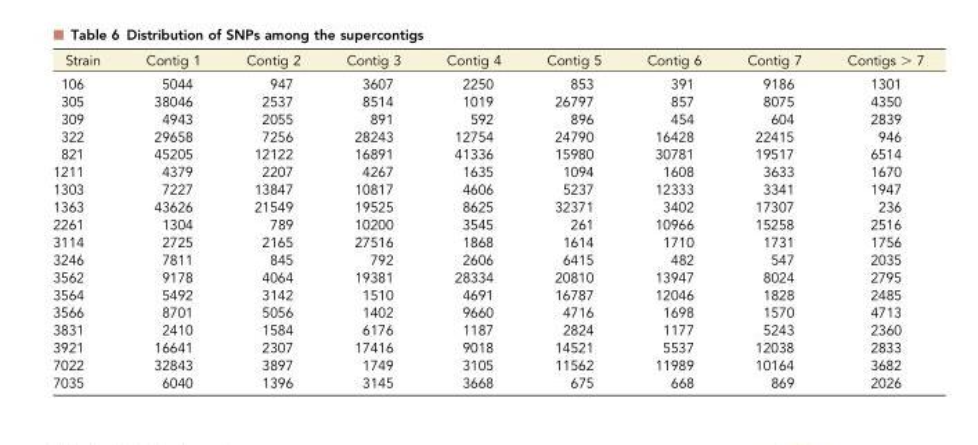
<table><thead><tr><td>Strain</td><td>Contig 1</td><td>Contig 2</td><td>Contig 3</td><td>Contig 4</td><td>Contig 5</td><td>Contig 6</td><td>Contig 7</td><td>Contigs &gt; 7</td></tr></thead><tbody><tr><td>106</td><td>5044</td><td>947</td><td>3607</td><td>2250</td><td>853</td><td>391</td><td>9186</td><td>1301</td></tr><tr><td>305</td><td>38046</td><td>2537</td><td>8514</td><td>1019</td><td>26797</td><td>857</td><td>8075</td><td>4350</td></tr><tr><td>309</td><td>4943</td><td>2055</td><td>891</td><td>592</td><td>896</td><td>454</td><td>604</td><td>2839</td></tr><tr><td>322</td><td>29658</td><td>7256</td><td>28243</td><td>12754</td><td>24790</td><td>16428</td><td>22415</td><td>946</td></tr><tr><td>821</td><td>45205</td><td>12122</td><td>16891</td><td>41336</td><td>15980</td><td>30781</td><td>19517</td><td>6514</td></tr><tr><td>1211</td><td>4379</td><td>2207</td><td>4267</td><td>1635</td><td>1094</td><td>1608</td><td>3633</td><td>1670</td></tr><tr><td>1303</td><td>7227</td><td>13847</td><td>10817</td><td>4606</td><td>5237</td><td>12333</td><td>3341</td><td>1947</td></tr><tr><td>1363</td><td>43626</td><td>21549</td><td>19525</td><td>8625</td><td>32371</td><td>3402</td><td>17307</td><td>236</td></tr><tr><td>2261</td><td>1304</td><td>789</td><td>10200</td><td>3545</td><td>261</td><td>10966</td><td>15258</td><td>2516</td></tr><tr><td>3114</td><td>2725</td><td>2165</td><td>27516</td><td>1868</td><td>1614</td><td>1710</td><td>1731</td><td>1756</td></tr><tr><td>3246</td><td>7811</td><td>845</td><td>792</td><td>2606</td><td>6415</td><td>482</td><td>547</td><td>2035</td></tr><tr><td>3562</td><td>9178</td><td>4064</td><td>19381</td><td>28334</td><td>20810</td><td>13947</td><td>8024</td><td>2795</td></tr><tr><td>3564</td><td>5492</td><td>3142</td><td>1510</td><td>4691</td><td>16787</td><td>12046</td><td>1828</td><td>2485</td></tr><tr><td>3566</td><td>8701</td><td>5056</td><td>1402</td><td>9660</td><td>4716</td><td>1698</td><td>1570</td><td>4713</td></tr><tr><td>3831</td><td>2410</td><td>1584</td><td>6176</td><td>1187</td><td>2824</td><td>1177</td><td>5243</td><td>2360</td></tr><tr><td>3921</td><td>16641</td><td>2307</td><td>17416</td><td>9018</td><td>14521</td><td>5537</td><td>12038</td><td>2833</td></tr><tr><td>7022</td><td>32843</td><td>3897</td><td>1749</td><td>3105</td><td>11562</td><td>11989</td><td>10164</td><td>3682</td></tr><tr><td>7035</td><td>6040</td><td>1396</td><td>3145</td><td>3668</td><td>675</td><td>668</td><td>869</td><td>2026</td></tr></tbody></table>